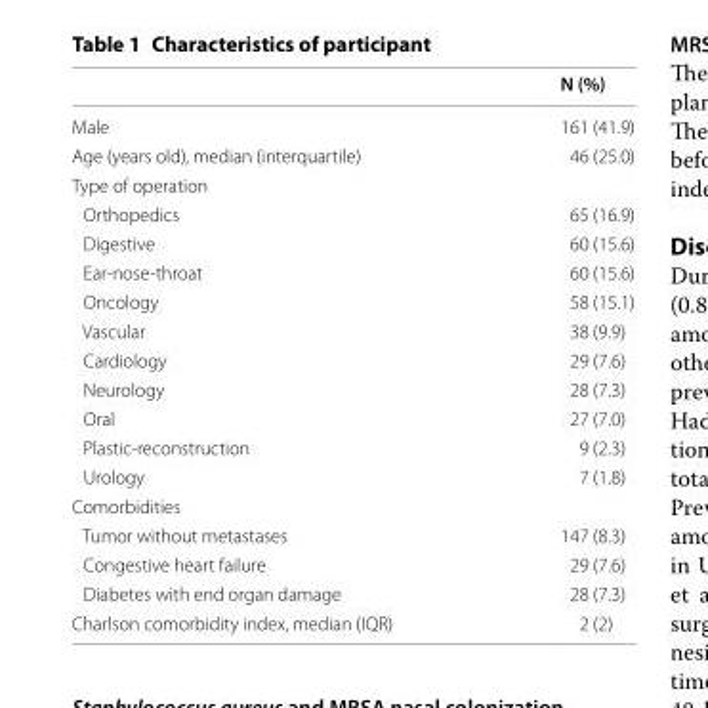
<table><thead><tr><td></td><td>N (%)</td></tr></thead><tbody><tr><td>Male</td><td>161 (41.9)</td></tr><tr><td>Age (years old), median (interquartile)</td><td>46 (25.0)</td></tr><tr><td colspan="2">Type of operation</td></tr><tr><td>Orthopedics</td><td>65 (16.9)</td></tr><tr><td>Digestive</td><td>60 (15.6)</td></tr><tr><td>Ear-nose-throat</td><td>60 (15.6)</td></tr><tr><td>Oncology</td><td>58 (15.1)</td></tr><tr><td>Vascular</td><td>38 (9.9)</td></tr><tr><td>Cardiology</td><td>29 (7.6)</td></tr><tr><td>Neurology</td><td>28 (7.3)</td></tr><tr><td>Oral</td><td>27 (7.0)</td></tr><tr><td>Plastic-reconstruction</td><td>9 (2.3)</td></tr><tr><td>Urology</td><td>7 (1.8)</td></tr><tr><td colspan="2">Comorbidities</td></tr><tr><td>Tumor without metastases</td><td>147 (8.3)</td></tr><tr><td>Congestive heart failure</td><td>29 (7.6)</td></tr><tr><td>Diabetes with end organ damage</td><td>28 (7.3)</td></tr><tr><td>Charlson comorbidity index, median (IQR)</td><td>2 (2)</td></tr></tbody></table>